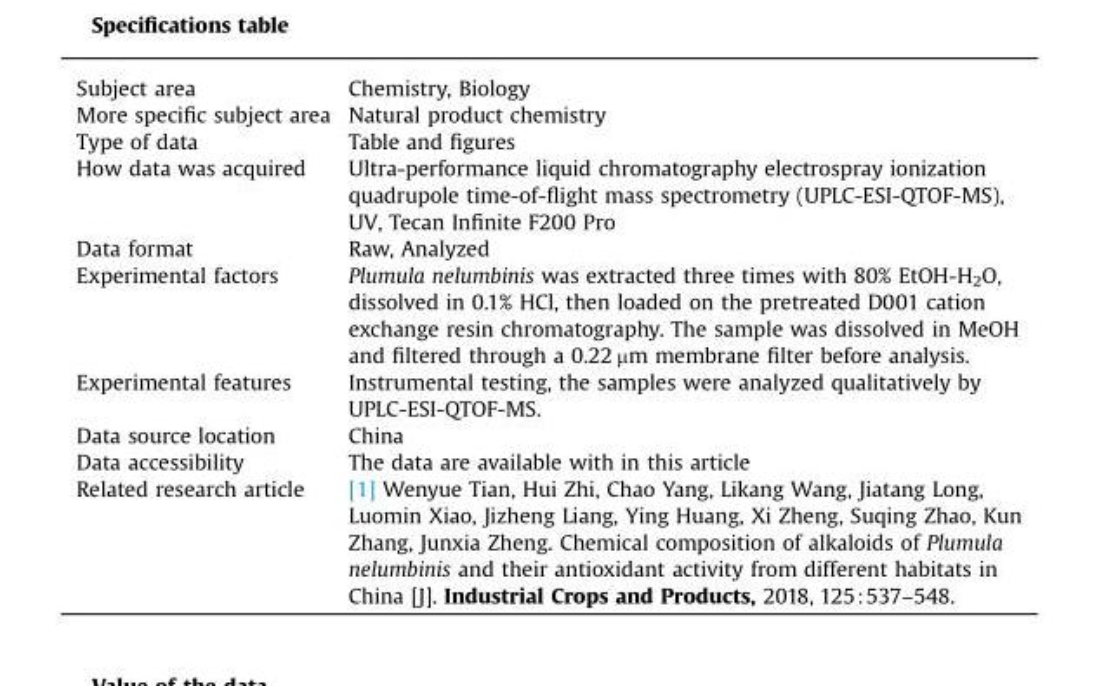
<table><thead><tr><td>Subject area</td><td>Chemistry, Biology</td></tr></thead><tbody><tr><td>More specific subject area</td><td>Natural product chemistry</td></tr><tr><td>Type of data</td><td>Table and figures</td></tr><tr><td>How data was acquired</td><td>Ultra-performance liquid chromatography electrospray ionization quadrupole time-of-flight mass spectrometry (UPLC-ESI-QTOF-MS), UV, Tecan Infinite F200 Pro</td></tr><tr><td>Data format</td><td>Raw, Analyzed</td></tr><tr><td>Experimental factors</td><td>Plumula nelumbinis was extracted three times with 80% EtOH-H<sub>2</sub>O, dissolved in 0.1% HCl, then loaded on the pretreated D001 cation exchange resin chromatography. The sample was dissolved in MeOH and filtered through a 0.22 µm membrane filter before analysis.</td></tr><tr><td>Experimental features</td><td>Instrumental testing, the samples were analyzed qualitatively by UPLC-ESI-QTOF-MS.</td></tr><tr><td>Data source location</td><td>China</td></tr><tr><td>Data accessibility</td><td>The data are available with in this article</td></tr><tr><td>Related research article</td><td>[1] Wenyue Tian, Hui Zhi, Chao Yang, Likang Wang, Jiatang Long, Luomin Xiao, Jizheng Liang, Ying Huang, Xi Zheng, Suqing Zhao, Kun Zhang, Junxia Zheng. Chemical composition of alkaloids of Plumula nelumbinis and their antioxidant activity from different habitats in China [J]. Industrial Crops and Products, 2018, 125∶537–548.</td></tr></tbody></table>